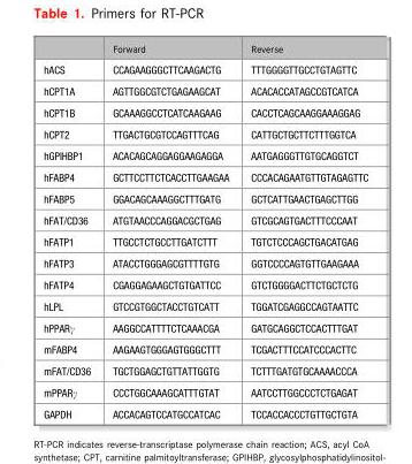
<table><thead><tr><td></td><td>Forward</td><td>Reverse</td></tr></thead><tbody><tr><td>hACS</td><td>CCAGAAGGGCTTCAAGACTG</td><td>TTTGGGGTTGCCTGTAGTTC</td></tr><tr><td>hCPT1A</td><td>AGTTGGCGTCTGAGAAGCAT</td><td>ACACACCATAGCCGTCATCA</td></tr><tr><td>hCPT1B</td><td>GCAAAGGCCTCATCAAGAAG</td><td>CACCTCAGCAAGGAAAGGAG</td></tr><tr><td>hCPT2</td><td>TTGACTGCGTCCAGTTTCAG</td><td>CATTGCTGCTTCTTTGGTCA</td></tr><tr><td>hGPIHBP1</td><td>ACACAGCAGGAGGAAGAGGA</td><td>AATGAGGGTTGTGCAGGTCT</td></tr><tr><td>hFABP4</td><td>GCTTCCTTCTCACCTTGAAGAA</td><td>CCCACAGAATGTTGTAGAGTTC</td></tr><tr><td>hFABP5</td><td>GGACAGCAAAGGCTTTGATG</td><td>GCTCATTGAACTGAGCTTGG</td></tr><tr><td>hFAT/CD36</td><td>ATGTAACCCAGGACGCTGAG</td><td>GTCGCAGTGACTTTCCCAAT</td></tr><tr><td>hFATP1</td><td>TTGCCTCTGCCTTGATCTTT</td><td>TGTCTCCCAGCTGACATGAG</td></tr><tr><td>hFATP3</td><td>ATACCTGGGAGCGTTTTGTG</td><td>GGTCCCCAGTGTTGAAGAAA</td></tr><tr><td>hFATP4</td><td>CGAGGAGAAGCTGTGATTCC</td><td>GTCTGGGGACTTCTGCTCTG</td></tr><tr><td>hLPL</td><td>GTCCGTGGCTACCTGTCATT</td><td>TGGATCGAGGCCAGTAATTC</td></tr><tr><td>hPPARγ</td><td>AAGGCCATTTTCTCAAACGA</td><td>GATGCAGGCTCCACTTTGAT</td></tr><tr><td>mFABP4</td><td>AAGAAGTGGGAGTGGGCTTT</td><td>TCGACTTTCCATCCCACTTC</td></tr><tr><td>mFAT/CD36</td><td>TGCTGGAGCTGTTATTGGTG</td><td>TCTTTGATGTGCAAAACCCA</td></tr><tr><td>mPPARγ</td><td>CCCTGGCAAAGCATTTGTAT</td><td>AATCCTTGGCCCTCTGAGAT</td></tr><tr><td>GAPDH</td><td>ACCACAGTCCATGCCATCAC</td><td>TCCACCACCCTGTTGCTGTA</td></tr></tbody></table>